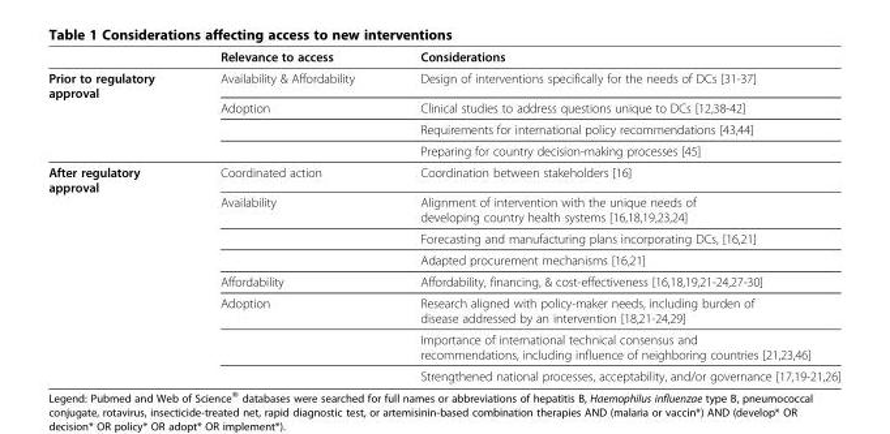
<table><thead><tr><td></td><td>Relevance to access</td><td>Considerations</td></tr></thead><tbody><tr><td rowspan="4">Prior to regulatory approval</td><td>Availability &amp; Affordability</td><td>Design of interventions specifically for the needs of DCs [31-37]</td></tr><tr><td>Adoption</td><td>Clinical studies to address questions unique to DCs [12,38-42]</td></tr><tr><td></td><td>Requirements for international policy recommendations [43,44]</td></tr><tr><td></td><td>Preparing for country decision-making processes [45]</td></tr><tr><td rowspan="8">After regulatory approval</td><td>Coordinated action</td><td>Coordination between stakeholders [16]</td></tr><tr><td>Availability</td><td>Alignment of intervention with the unique needs of developing country health systems [16,18,19,23,24]</td></tr><tr><td></td><td>Forecasting and manufacturing plans incorporating DCs, [16,21]</td></tr><tr><td></td><td>Adapted procurement mechanisms [16,21]</td></tr><tr><td>Affordability</td><td>Affordability, financing, &amp; cost-effectiveness [16,18,19,21-24,27-30]</td></tr><tr><td>Adoption</td><td>Research aligned with policy-maker needs, including burden of disease addressed by an intervention [18,21-24,29]</td></tr><tr><td></td><td>Importance of international technical consensus and recommendations, including influence of neighboring countries [21,23,46]</td></tr><tr><td></td><td>Strengthened national processes, acceptability, and/or governance [17,19-21,26]</td></tr></tbody></table>